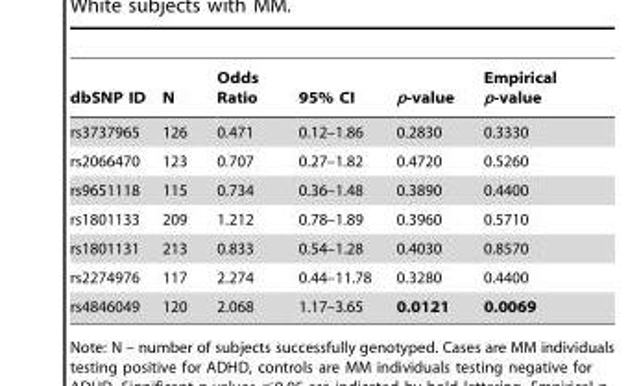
<table><thead><tr><td>dbSNP ID</td><td>N</td><td>Odds Ratio</td><td>95% CI</td><td>p-value</td><td>Empirical p-value</td></tr></thead><tbody><tr><td>rs3737965</td><td>126</td><td>0.471</td><td>0.12–1.86</td><td>0.2830</td><td>0.3330</td></tr><tr><td>rs2066470</td><td>123</td><td>0.707</td><td>0.27–1.82</td><td>0.4720</td><td>0.5260</td></tr><tr><td>rs9651118</td><td>115</td><td>0.734</td><td>0.36–1.48</td><td>0.3890</td><td>0.4400</td></tr><tr><td>rs1801133</td><td>209</td><td>1.212</td><td>0.78–1.89</td><td>0.3960</td><td>0.5710</td></tr><tr><td>rs1801131</td><td>213</td><td>0.833</td><td>0.54–1.28</td><td>0.4030</td><td>0.8570</td></tr><tr><td>rs2274976</td><td>117</td><td>2.274</td><td>0.44–11.78</td><td>0.3280</td><td>0.4400</td></tr><tr><td>rs4846049</td><td>120</td><td>2.068</td><td>1.17–3.65</td><td>0.0121</td><td>0.0069</td></tr></tbody></table>